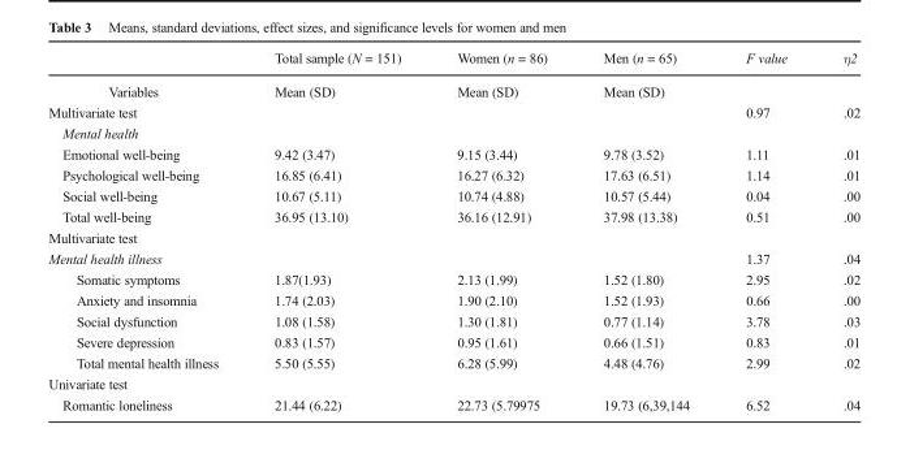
<table><thead><tr><td></td><td>Total sample (N = 151)</td><td>Women (n = 86)</td><td>Men (n = 65)</td><td>F value</td><td>η2</td></tr></thead><tbody><tr><td>Variables</td><td>Mean (SD)</td><td>Mean (SD)</td><td>Mean (SD)</td><td></td><td></td></tr><tr><td>Multivariate test</td><td></td><td></td><td></td><td>0.97</td><td>.02</td></tr><tr><td colspan="6">Mental health</td></tr><tr><td>Emotional well-being</td><td>9.42 (3.47)</td><td>9.15 (3.44)</td><td>9.78 (3.52)</td><td>1.11</td><td>.01</td></tr><tr><td>Psychological well-being</td><td>16.85 (6.41)</td><td>16.27 (6.32)</td><td>17.63 (6.51)</td><td>1.14</td><td>.01</td></tr><tr><td>Social well-being</td><td>10.67 (5.11)</td><td>10.74 (4.88)</td><td>10.57 (5.44)</td><td>0.04</td><td>.00</td></tr><tr><td>Total well-being</td><td>36.95 (13.10)</td><td>36.16 (12.91)</td><td>37.98 (13.38)</td><td>0.51</td><td>.00</td></tr><tr><td colspan="6">Multivariate test</td></tr><tr><td>Mental health illness</td><td></td><td></td><td></td><td>1.37</td><td>.04</td></tr><tr><td>Somatic symptoms</td><td>1.87(1.93)</td><td>2.13 (1.99)</td><td>1.52 (1.80)</td><td>2.95</td><td>.02</td></tr><tr><td>Anxiety and insomnia</td><td>1.74 (2.03)</td><td>1.90 (2.10)</td><td>1.52 (1.93)</td><td>0.66</td><td>.00</td></tr><tr><td>Social dysfunction</td><td>1.08 (1.58)</td><td>1.30 (1.81)</td><td>0.77 (1.14)</td><td>3.78</td><td>.03</td></tr><tr><td>Severe depression</td><td>0.83 (1.57)</td><td>0.95 (1.61)</td><td>0.66 (1.51)</td><td>0.83</td><td>.01</td></tr><tr><td>Total mental health illness</td><td>5.50 (5.55)</td><td>6.28 (5.99)</td><td>4.48 (4.76)</td><td>2.99</td><td>.02</td></tr><tr><td colspan="6">Univariate test</td></tr><tr><td>Romantic loneliness</td><td>21.44 (6.22)</td><td>22.73 (5.79975</td><td>19.73 (6,39,144</td><td>6.52</td><td>.04</td></tr></tbody></table>